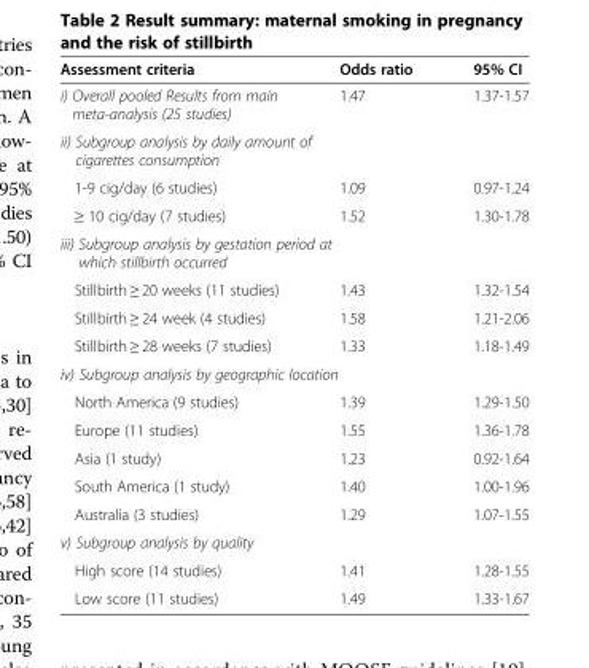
<table><thead><tr><td>Assessment criteria</td><td>Odds ratio</td><td>95% CI</td></tr></thead><tbody><tr><td>i) Overall pooled Results from main meta-analysis (25 studies)</td><td>1.47</td><td>1.37-1.57</td></tr><tr><td colspan="3">ii) Subgroup analysis by daily amount of cigarettes consumption</td></tr><tr><td>1-9 cig/day (6 studies)</td><td>1.09</td><td>0.97-1.24</td></tr><tr><td>≥ 10 cig/day (7 studies)</td><td>1.52</td><td>1.30-1.78</td></tr><tr><td colspan="3">iii) Subgroup analysis by gestation period at which stillbirth occurred</td></tr><tr><td>Stillbirth ≥ 20 weeks (11 studies)</td><td>1.43</td><td>1.32-1.54</td></tr><tr><td>Stillbirth ≥ 24 week (4 studies)</td><td>1.58</td><td>1.21-2.06</td></tr><tr><td>Stillbirth ≥ 28 weeks (7 studies)</td><td>1.33</td><td>1.18-1.49</td></tr><tr><td colspan="3">iv) Subgroup analysis by geographic location</td></tr><tr><td>North America (9 studies)</td><td>1.39</td><td>1.29-1.50</td></tr><tr><td>Europe (11 studies)</td><td>1.55</td><td>1.36-1.78</td></tr><tr><td>Asia (1 study)</td><td>1.23</td><td>0.92-1.64</td></tr><tr><td>South America (1 study)</td><td>1.40</td><td>1.00-1.96</td></tr><tr><td>Australia (3 studies)</td><td>1.29</td><td>1.07-1.55</td></tr><tr><td colspan="3">v) Subgroup analysis by quality</td></tr><tr><td>High score (14 studies)</td><td>1.41</td><td>1.28-1.55</td></tr><tr><td>Low score (11 studies)</td><td>1.49</td><td>1.33-1.67</td></tr></tbody></table>